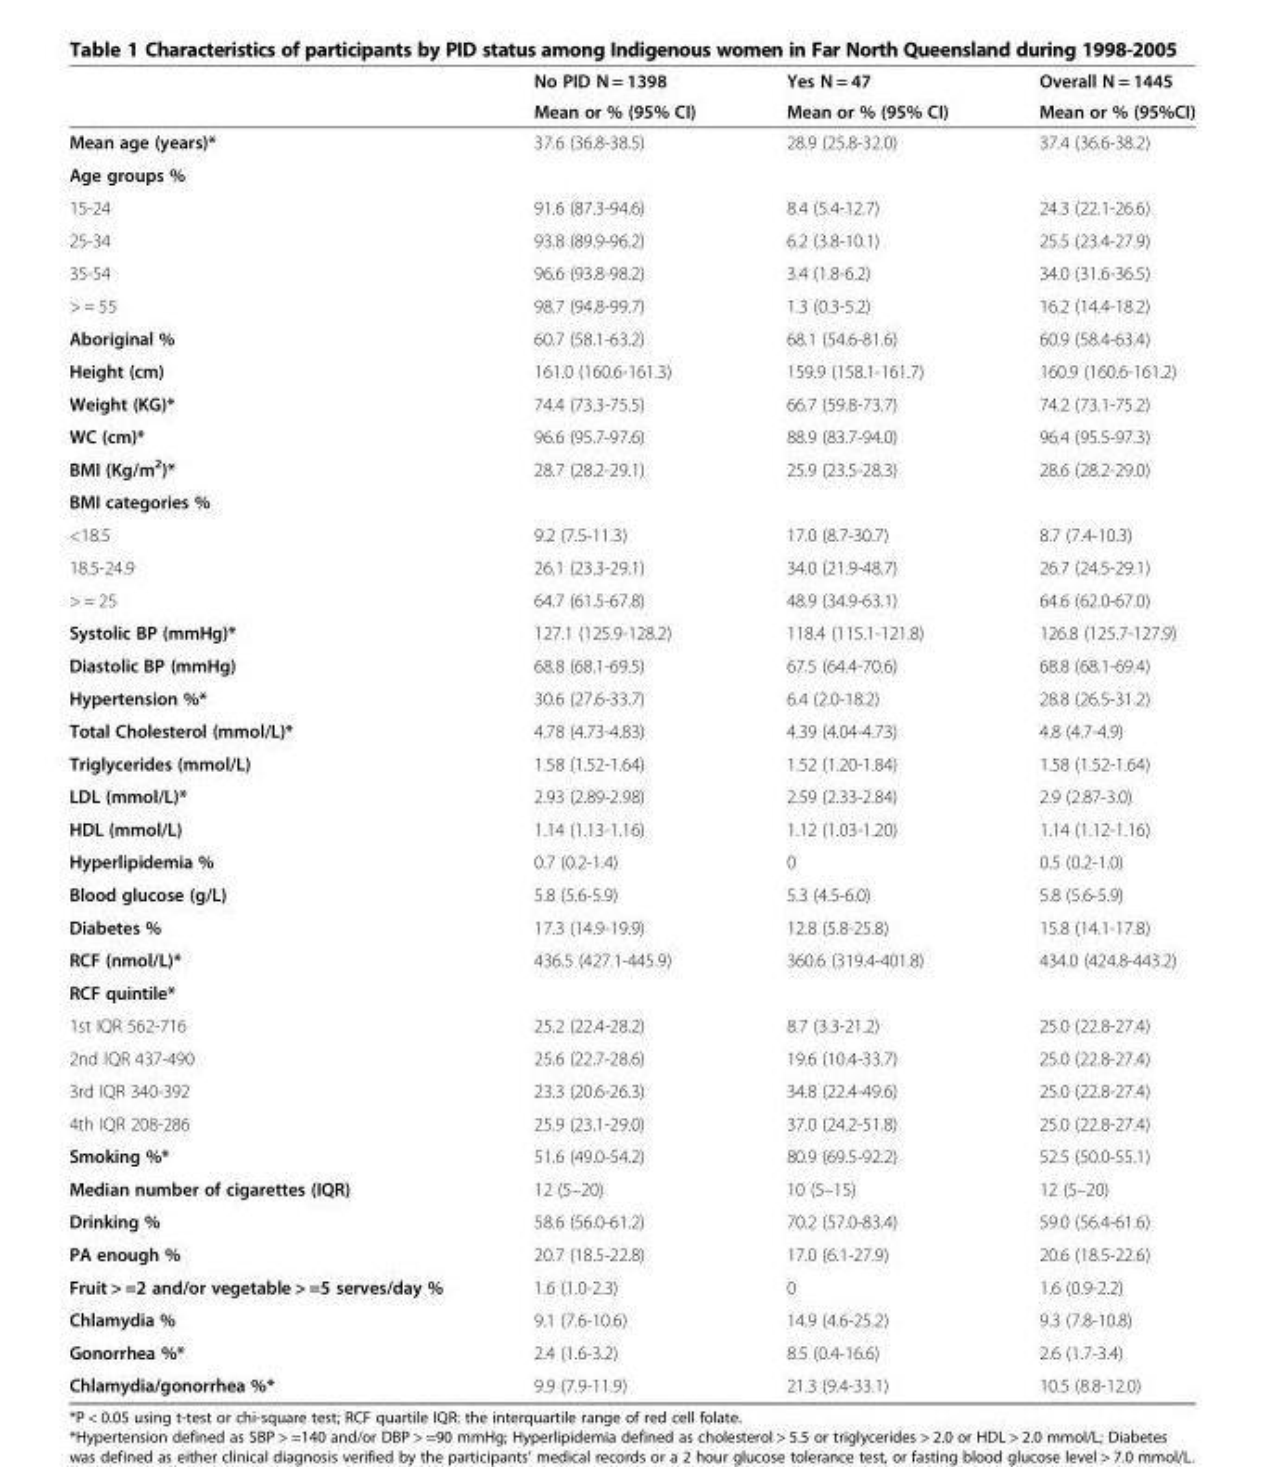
<table><thead><tr><td rowspan="2"></td><td rowspan="2">No PID N = 1398 Mean or % (95% CI)</td><td rowspan="2">Yes N = 47 Mean or % (95% CI)</td><td rowspan="2">Overall N = 1445 Mean or % (95%CI)</td></tr><tr></tr></thead><tbody><tr><td>Mean age (years)*</td><td>37.6 (36.8-38.5)</td><td>28.9 (25.8-32.0)</td><td>37.4 (36.6-38.2)</td></tr><tr><td colspan="4">Age groups %</td></tr><tr><td>15-24</td><td>91.6 (87.3-94.6)</td><td>8.4 (5.4-12.7)</td><td>24.3 (22.1-26.6)</td></tr><tr><td>25-34</td><td>93.8 (89.9-96.2)</td><td>6.2 (3.8-10.1)</td><td>25.5 (23.4-27.9)</td></tr><tr><td>35-54</td><td>96.6 (93.8-98.2)</td><td>3.4 (1.8-6.2)</td><td>34.0 (31.6-36.5)</td></tr><tr><td>&gt; = 55</td><td>98.7 (94.8-99.7)</td><td>1.3 (0.3-5.2)</td><td>16.2 (14.4-18.2)</td></tr><tr><td>Aboriginal %</td><td>60.7 (58.1-63.2)</td><td>68.1 (54.6-81.6)</td><td>60.9 (58.4-63.4)</td></tr><tr><td>Height (cm)</td><td>161.0 (160.6-161.3)</td><td>159.9 (158.1-161.7)</td><td>160.9 (160.6-161.2)</td></tr><tr><td>Weight (KG)*</td><td>74.4 (73.3-75.5)</td><td>66.7 (59.8-73.7)</td><td>74.2 (73.1-75.2)</td></tr><tr><td>WC (cm)*</td><td>96.6 (95.7-97.6)</td><td>88.9 (83.7-94.0)</td><td>96.4 (95.5-97.3)</td></tr><tr><td>BMI (Kg/m<sup>2</sup>)*</td><td>28.7 (28.2-29.1)</td><td>25.9 (23.5-28.3)</td><td>28.6 (28.2-29.0)</td></tr><tr><td colspan="4">BMI categories %</td></tr><tr><td>&lt;18.5</td><td>9.2 (7.5-11.3)</td><td>17.0 (8.7-30.7)</td><td>8.7 (7.4-10.3)</td></tr><tr><td>18.5-24.9</td><td>26.1 (23.3-29.1)</td><td>34.0 (21.9-48.7)</td><td>26.7 (24.5-29.1)</td></tr><tr><td>&gt; = 25</td><td>64.7 (61.5-67.8)</td><td>48.9 (34.9-63.1)</td><td>64.6 (62.0-67.0)</td></tr><tr><td>Systolic BP (mmHg)*</td><td>127.1 (125.9-128.2)</td><td>118.4 (115.1-121.8)</td><td>126.8 (125.7-127.9)</td></tr><tr><td>Diastolic BP (mmHg)</td><td>68.8 (68.1-69.5)</td><td>67.5 (64.4-70.6)</td><td>68.8 (68.1-69.4)</td></tr><tr><td>Hypertension %*</td><td>30.6 (27.6-33.7)</td><td>6.4 (2.0-18.2)</td><td>28.8 (26.5-31.2)</td></tr><tr><td>Total Cholesterol (mmol/L)*</td><td>4.78 (4.73-4.83)</td><td>4.39 (4.04-4.73)</td><td>4.8 (4.7-4.9)</td></tr><tr><td>Triglycerides (mmol/L)</td><td>1.58 (1.52-1.64)</td><td>1.52 (1.20-1.84)</td><td>1.58 (1.52-1.64)</td></tr><tr><td>LDL (mmol/L)*</td><td>2.93 (2.89-2.98)</td><td>2.59 (2.33-2.84)</td><td>2.9 (2.87-3.0)</td></tr><tr><td>HDL (mmol/L)</td><td>1.14 (1.13-1.16)</td><td>1.12 (1.03-1.20)</td><td>1.14 (1.12-1.16)</td></tr><tr><td>Hyperlipidemia %</td><td>0.7 (0.2-1.4)</td><td>0</td><td>0.5 (0.2-1.0)</td></tr><tr><td>Blood glucose (g/L)</td><td>5.8 (5.6-5.9)</td><td>5.3 (4.5-6.0)</td><td>5.8 (5.6-5.9)</td></tr><tr><td>Diabetes %</td><td>17.3 (14.9-19.9)</td><td>12.8 (5.8-25.8)</td><td>15.8 (14.1-17.8)</td></tr><tr><td>RCF (nmol/L)*</td><td>436.5 (427.1-445.9)</td><td>360.6 (319.4-401.8)</td><td>434.0 (424.8-443.2)</td></tr><tr><td colspan="4">RCF quintile*</td></tr><tr><td>1st IQR 562-716</td><td>25.2 (22.4-28.2)</td><td>8.7 (3.3-21.2)</td><td>25.0 (22.8-27.4)</td></tr><tr><td>2nd IQR 437-490</td><td>25.6 (22.7-28.6)</td><td>19.6 (10.4-33.7)</td><td>25.0 (22.8-27.4)</td></tr><tr><td>3rd IQR 340-392</td><td>23.3 (20.6-26.3)</td><td>34.8 (22.4-49.6)</td><td>25.0 (22.8-27.4)</td></tr><tr><td>4th IQR 208-286</td><td>25.9 (23.1-29.0)</td><td>37.0 (24.2-51.8)</td><td>25.0 (22.8-27.4)</td></tr><tr><td>Smoking %*</td><td>51.6 (49.0-54.2)</td><td>80.9 (69.5-92.2)</td><td>52.5 (50.0-55.1)</td></tr><tr><td>Median number of cigarettes (IQR)</td><td>12 (5–20)</td><td>10 (5–15)</td><td>12 (5–20)</td></tr><tr><td>Drinking %</td><td>58.6 (56.0-61.2)</td><td>70.2 (57.0-83.4)</td><td>59.0 (56.4-61.6)</td></tr><tr><td>PA enough %</td><td>20.7 (18.5-22.8)</td><td>17.0 (6.1-27.9)</td><td>20.6 (18.5-22.6)</td></tr><tr><td>Fruit &gt; =2 and/or vegetable &gt; =5 serves/day %</td><td>1.6 (1.0-2.3)</td><td>0</td><td>1.6 (0.9-2.2)</td></tr><tr><td>Chlamydia %</td><td>9.1 (7.6-10.6)</td><td>14.9 (4.6-25.2)</td><td>9.3 (7.8-10.8)</td></tr><tr><td>Gonorrhea %*</td><td>2.4 (1.6-3.2)</td><td>8.5 (0.4-16.6)</td><td>2.6 (1.7-3.4)</td></tr><tr><td>Chlamydia/gonorrhea %*</td><td>9.9 (7.9-11.9)</td><td>21.3 (9.4-33.1)</td><td>10.5 (8.8-12.0)</td></tr></tbody></table>